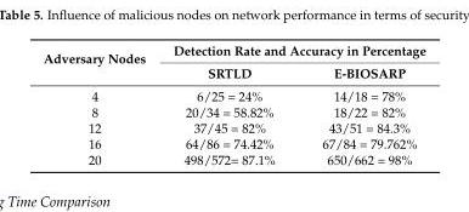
<table><thead><tr><td rowspan="2">Adversary Nodes</td><td colspan="2">Detection Rate and Accuracy in Percentage</td></tr><tr><td>SRTLD</td><td>E-BIOSARP</td></tr></thead><tbody><tr><td>4</td><td>6/25 = 24%</td><td>14/18 = 78%</td></tr><tr><td>8</td><td>20/34 = 58.82%</td><td>18/22 = 82%</td></tr><tr><td>12</td><td>37/45 = 82%</td><td>43/51 = 84.3%</td></tr><tr><td>16</td><td>64/86 = 74.42%</td><td>67/84 = 79.762%</td></tr><tr><td>20</td><td>498/572= 87.1%</td><td>650/662 = 98%</td></tr></tbody></table>